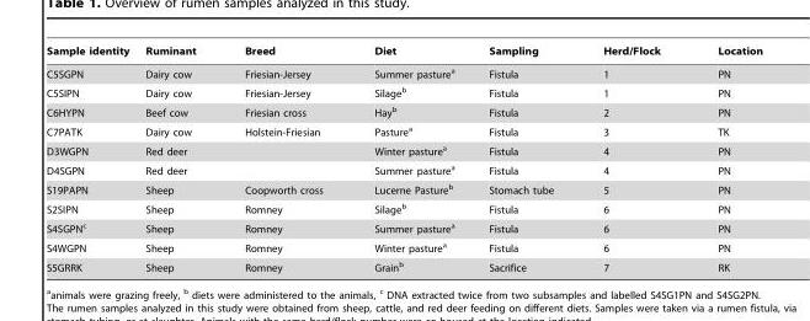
<table><thead><tr><td>Sample identity</td><td>Ruminant</td><td>Breed</td><td>Diet</td><td>Sampling</td><td>Herd/Flock</td><td>Location</td></tr></thead><tbody><tr><td>C5SGPN</td><td>Dairy cow</td><td>Friesian-Jersey</td><td>Summer pasture<sup>a</sup></td><td>Fistula</td><td>1</td><td>PN</td></tr><tr><td>C5SIPN</td><td>Dairy cow</td><td>Friesian-Jersey</td><td>Silage<sup>b</sup></td><td>Fistula</td><td>1</td><td>PN</td></tr><tr><td>C6HYPN</td><td>Beef cow</td><td>Friesian cross</td><td>Hay<sup>b</sup></td><td>Fistula</td><td>2</td><td>PN</td></tr><tr><td>C7PATK</td><td>Dairy cow</td><td>Holstein-Friesian</td><td>Pasture<sup>a</sup></td><td>Fistula</td><td>3</td><td>TK</td></tr><tr><td>D3WGPN</td><td>Red deer</td><td></td><td>Winter pasture<sup>a</sup></td><td>Fistula</td><td>4</td><td>PN</td></tr><tr><td>D4SGPN</td><td>Red deer</td><td></td><td>Summer pasture<sup>a</sup></td><td>Fistula</td><td>4</td><td>PN</td></tr><tr><td>S19PAPN</td><td>Sheep</td><td>Coopworth cross</td><td>Lucerne Pasture<sup>b</sup></td><td>Stomach tube</td><td>5</td><td>PN</td></tr><tr><td>S2SIPN</td><td>Sheep</td><td>Romney</td><td>Silage<sup>b</sup></td><td>Fistula</td><td>6</td><td>PN</td></tr><tr><td>S4SGPN<sup>c</sup></td><td>Sheep</td><td>Romney</td><td>Summer pasture<sup>a</sup></td><td>Fistula</td><td>6</td><td>PN</td></tr><tr><td>S4WGPN</td><td>Sheep</td><td>Romney</td><td>Winter pasture<sup>a</sup></td><td>Fistula</td><td>6</td><td>PN</td></tr><tr><td>S5GRRK</td><td>Sheep</td><td>Romney</td><td>Grain<sup>b</sup></td><td>Sacrifice</td><td>7</td><td>RK</td></tr></tbody></table>